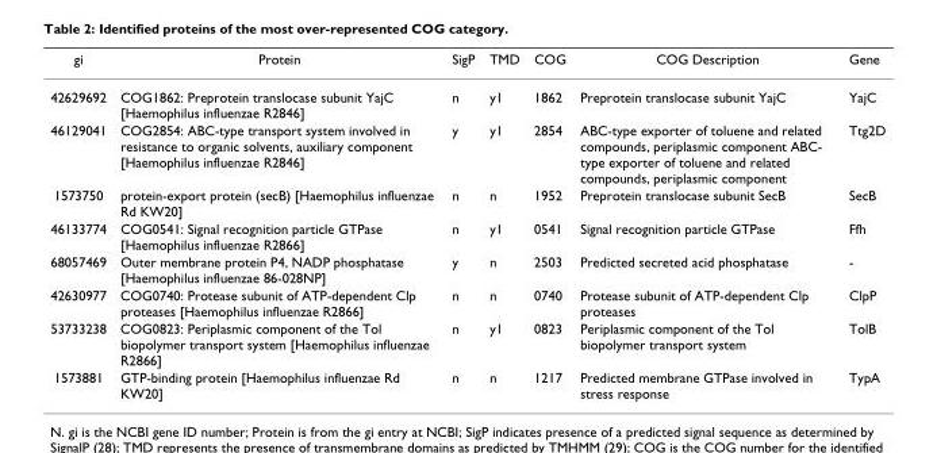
<table><thead><tr><td>gi</td><td>Protein</td><td>SigP</td><td>TMD</td><td>COG</td><td>COG Description</td><td>Gene</td></tr></thead><tbody><tr><td>42629692</td><td>COG1862: Preprotein translocase subunit YajC [Haemophilus influenzae R2846]</td><td>n</td><td>y1</td><td>1862</td><td>Preprotein translocase subunit YajC</td><td>YajC</td></tr><tr><td>46129041</td><td>COG2854: ABC-type transport system involved in resistance to organic solvents, auxiliary component [Haemophilus influenzae R2846]</td><td>y</td><td>y1</td><td>2854</td><td>ABC-type exporter of toluene and related compounds, periplasmic component ABC- type exporter of toluene and related compounds, periplasmic component</td><td>Ttg2D</td></tr><tr><td>1573750</td><td>protein-export protein (secB) [Haemophilus influenzae Rd KW20]</td><td>n</td><td>n</td><td>1952</td><td>Preprotein translocase subunit SecB</td><td>SecB</td></tr><tr><td>46133774</td><td>COG0541: Signal recognition particle GTPase [Haemophilus influenzae R2866]</td><td>n</td><td>y1</td><td>0541</td><td>Signal recognition particle GTPase</td><td>Ffh</td></tr><tr><td>68057469</td><td>Outer membrane protein P4, NADP phosphatase [Haemophilus influenzae 86-028NP]</td><td>y</td><td>n</td><td>2503</td><td>Predicted secreted acid phosphatase</td><td>-</td></tr><tr><td>42630977</td><td>COG0740: Protease subunit of ATP-dependent Clp proteases [Haemophilus influenzae R2866]</td><td>n</td><td>n</td><td>0740</td><td>Protease subunit of ATP-dependent Clp proteases</td><td>ClpP</td></tr><tr><td>53733238</td><td>COG0823: Periplasmic component of the Tol biopolymer transport system [Haemophilus influenzae R2866]</td><td>n</td><td>y1</td><td>0823</td><td>Periplasmic component of the Tol biopolymer transport system</td><td>TolB</td></tr><tr><td>1573881</td><td>GTP-binding protein [Haemophilus influenzae Rd KW20]</td><td>n</td><td>n</td><td>1217</td><td>Predicted membrane GTPase involved in stress response</td><td>TypA</td></tr></tbody></table>